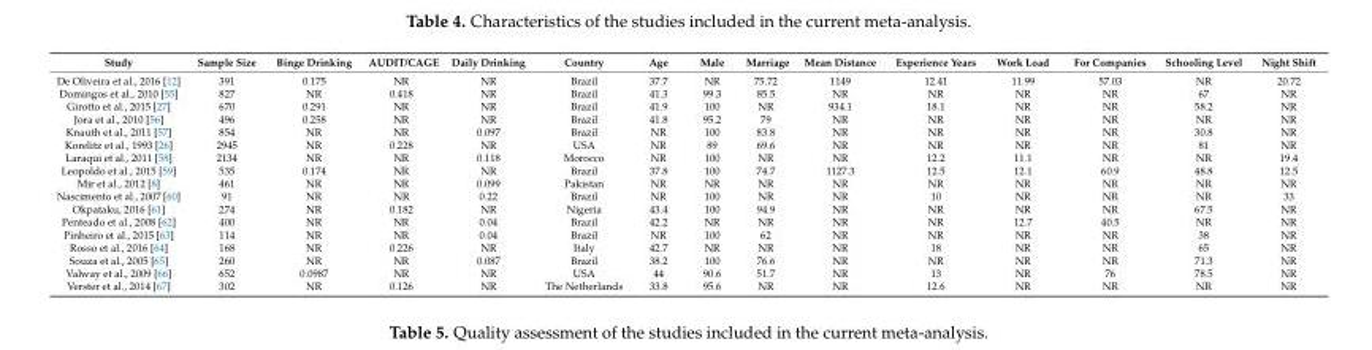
<table><thead><tr><td>Study</td><td>Sample Size</td><td>Binge Drinking</td><td>AUDIT/CAGE</td><td>Daily Drinking</td><td>Country</td><td>Age</td><td>Male</td><td>Marriage</td><td>Mean Distance</td><td>Experience Years</td><td>Work Load</td><td>For Companies</td><td>Schooling Level</td><td>Night Shift</td></tr></thead><tbody><tr><td>De Oliveira et al., 2016 [12]</td><td>391</td><td>0.175</td><td>NR</td><td>NR</td><td>Brazil</td><td>37.7</td><td>NR</td><td>75.72</td><td>1149</td><td>12.41</td><td>11.99</td><td>57.03</td><td>NR</td><td>20.72</td></tr><tr><td>Domingos et al., 2010 [55]</td><td>827</td><td>NR</td><td>0.418</td><td>NR</td><td>Brazil</td><td>41.3</td><td>99.3</td><td>85.5</td><td>NR</td><td>NR</td><td>NR</td><td>NR</td><td>67</td><td>NR</td></tr><tr><td>Girotto et al., 2015 [27]</td><td>670</td><td>0.291</td><td>NR</td><td>NR</td><td>Brazil</td><td>41.9</td><td>100</td><td>NR</td><td>934.1</td><td>18.1</td><td>NR</td><td>NR</td><td>58.2</td><td>NR</td></tr><tr><td>Jora et al., 2010 [56]</td><td>496</td><td>0.258</td><td>NR</td><td>NR</td><td>Brazil</td><td>41.8</td><td>95.2</td><td>79</td><td>NR</td><td>NR</td><td>NR</td><td>NR</td><td>NR</td><td>NR</td></tr><tr><td>Knauth et al., 2011 [57]</td><td>854</td><td>NR</td><td>NR</td><td>0.097</td><td>Brazil</td><td>NR</td><td>100</td><td>83.8</td><td>NR</td><td>NR</td><td>NR</td><td>NR</td><td>30.8</td><td>NR</td></tr><tr><td>Korelitz et al., 1993 [26]</td><td>2945</td><td>NR</td><td>0.228</td><td>NR</td><td>USA</td><td>NR</td><td>89</td><td>69.6</td><td>NR</td><td>NR</td><td>NR</td><td>NR</td><td>81</td><td>NR</td></tr><tr><td>Laraqui et al., 2011 [58]</td><td>2134</td><td>NR</td><td>NR</td><td>0.118</td><td>Morocco</td><td>NR</td><td>100</td><td>NR</td><td>NR</td><td>12.2</td><td>11.1</td><td>NR</td><td>NR</td><td>19.4</td></tr><tr><td>Leopoldo et al., 2015 [59]</td><td>535</td><td>0.174</td><td>NR</td><td>NR</td><td>Brazil</td><td>37.8</td><td>100</td><td>74.7</td><td>1127.3</td><td>12.5</td><td>12.1</td><td>60.9</td><td>48.8</td><td>12.5</td></tr><tr><td>Mir et al., 2012 [8]</td><td>461</td><td>NR</td><td>NR</td><td>0.099</td><td>Pakistan</td><td>NR</td><td>NR</td><td>NR</td><td>NR</td><td>NR</td><td>NR</td><td>NR</td><td>NR</td><td>NR</td></tr><tr><td>Nascimento et al., 2007 [60]</td><td>91</td><td>NR</td><td>NR</td><td>0.22</td><td>Brazil</td><td>NR</td><td>100</td><td>NR</td><td>NR</td><td>10</td><td>NR</td><td>NR</td><td>NR</td><td>33</td></tr><tr><td>Okpataku, 2016 [61]</td><td>274</td><td>NR</td><td>0.182</td><td>NR</td><td>Nigeria</td><td>43.4</td><td>100</td><td>94.9</td><td>NR</td><td>NR</td><td>NR</td><td>NR</td><td>67.5</td><td>NR</td></tr><tr><td>Penteado et al., 2008 [62]</td><td>400</td><td>NR</td><td>NR</td><td>0.04</td><td>Brazil</td><td>42.2</td><td>NR</td><td>NR</td><td>NR</td><td>NR</td><td>12.7</td><td>40.5</td><td>NR</td><td>NR</td></tr><tr><td>Pinheiro et al., 2015 [63]</td><td>114</td><td>NR</td><td>NR</td><td>0.04</td><td>Brazil</td><td>NR</td><td>100</td><td>62</td><td>NR</td><td>NR</td><td>NR</td><td>NR</td><td>38</td><td>NR</td></tr><tr><td>Rosso et al., 2016 [64]</td><td>168</td><td>NR</td><td>0.226</td><td>NR</td><td>Italy</td><td>42.7</td><td>NR</td><td>NR</td><td>NR</td><td>18</td><td>NR</td><td>NR</td><td>65</td><td>NR</td></tr><tr><td>Souza et al., 2005 [65]</td><td>260</td><td>NR</td><td>NR</td><td>0.087</td><td>Brazil</td><td>38.2</td><td>100</td><td>76.6</td><td>NR</td><td>NR</td><td>NR</td><td>NR</td><td>71.3</td><td>NR</td></tr><tr><td>Valway et al., 2009 [66]</td><td>652</td><td>0.0987</td><td>NR</td><td>NR</td><td>USA</td><td>44</td><td>90.6</td><td>51.7</td><td>NR</td><td>13</td><td>NR</td><td>76</td><td>78.5</td><td>NR</td></tr><tr><td>Verster et al., 2014 [67]</td><td>302</td><td>NR</td><td>0.126</td><td>NR</td><td>The Netherlands</td><td>33.8</td><td>95.6</td><td>NR</td><td>NR</td><td>12.6</td><td>NR</td><td>NR</td><td>NR</td><td>NR</td></tr></tbody></table>